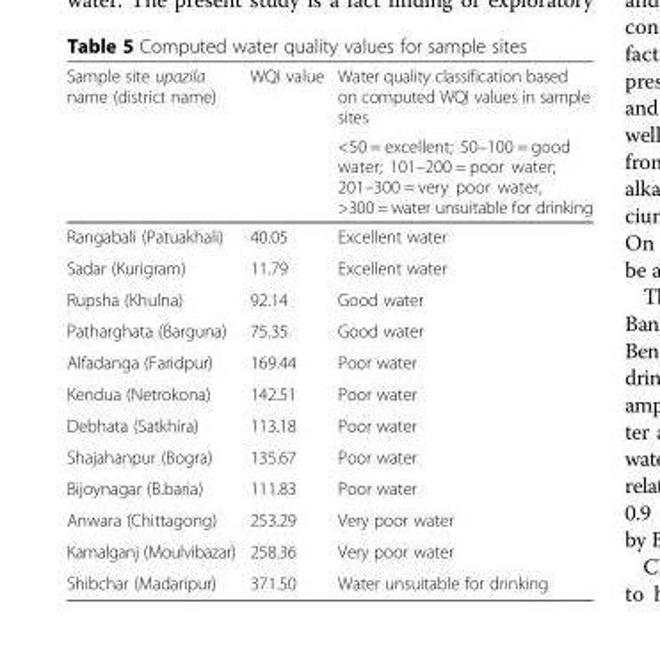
<table><thead><tr><td rowspan="2">Sample site upazila name (district name)</td><td rowspan="2">WQI value</td><td rowspan="2">Water quality classification based on computed WQI values in sample sites &lt;50 = excellent; 50–100 = good water; 101–200 = poor water; 201–300 = very poor water, &gt;300 = water unsuitable for drinking</td></tr><tr></tr></thead><tbody><tr><td>Rangabali (Patuakhali)</td><td>40.05</td><td>Excellent water</td></tr><tr><td>Sadar (Kurigram)</td><td>11.79</td><td>Excellent water</td></tr><tr><td>Rupsha (Khulna)</td><td>92.14</td><td>Good water</td></tr><tr><td>Patharghata (Barguna)</td><td>75.35</td><td>Good water</td></tr><tr><td>Alfadanga (Faridpur)</td><td>169.44</td><td>Poor water</td></tr><tr><td>Kendua (Netrokona)</td><td>142.51</td><td>Poor water</td></tr><tr><td>Debhata (Satkhira)</td><td>113.18</td><td>Poor water</td></tr><tr><td>Shajahanpur (Bogra)</td><td>135.67</td><td>Poor water</td></tr><tr><td>Bijoynagar (B.baria)</td><td>111.83</td><td>Poor water</td></tr><tr><td>Anwara (Chittagong)</td><td>253.29</td><td>Very poor water</td></tr><tr><td>Kamalganj (Moulvibazar)</td><td>258.36</td><td>Very poor water</td></tr><tr><td>Shibchar (Madaripur)</td><td>371.50</td><td>Water unsuitable for drinking</td></tr></tbody></table>